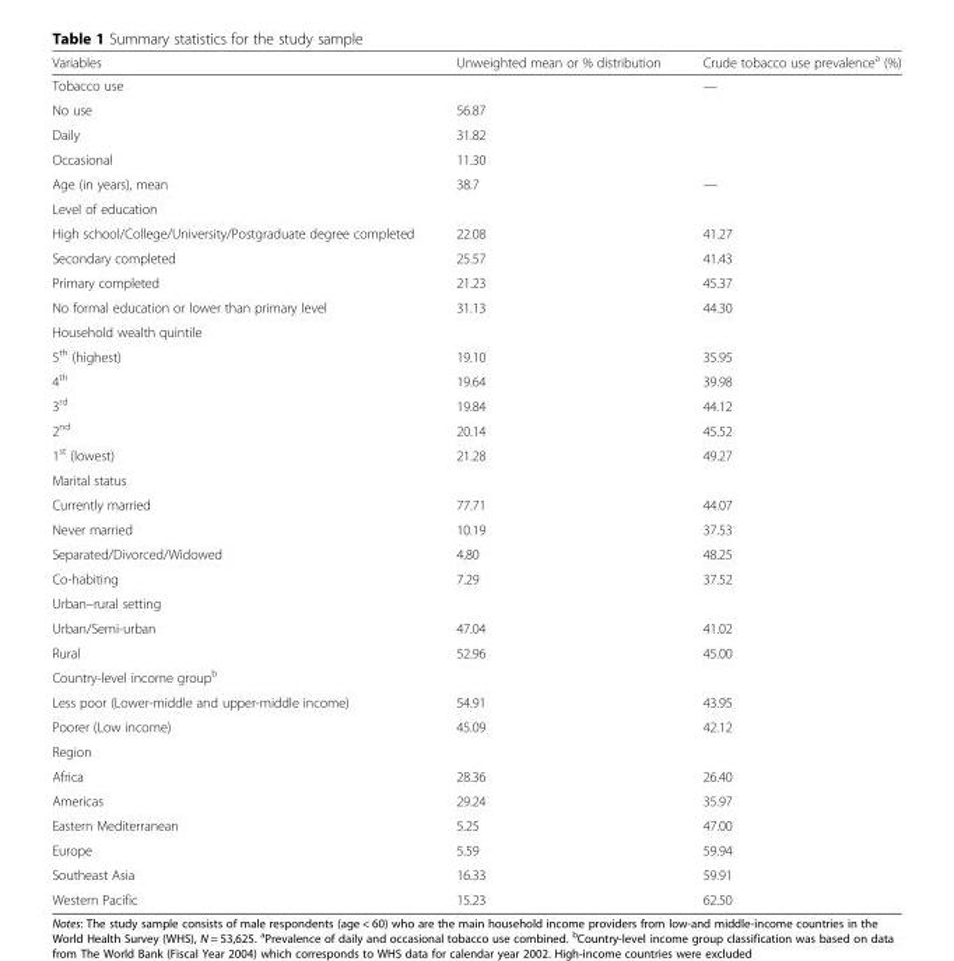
<table><thead><tr><td>Variables</td><td>Unweighted mean or % distribution</td><td>Crude tobacco use prevalence<sup>a</sup> (%)</td></tr></thead><tbody><tr><td>Tobacco use</td><td></td><td>—</td></tr><tr><td>No use</td><td>56.87</td><td></td></tr><tr><td>Daily</td><td>31.82</td><td></td></tr><tr><td>Occasional</td><td>11.30</td><td></td></tr><tr><td>Age (in years), mean</td><td>38.7</td><td>—</td></tr><tr><td colspan="3">Level of education</td></tr><tr><td>High school/College/University/Postgraduate degree completed</td><td>22.08</td><td>41.27</td></tr><tr><td>Secondary completed</td><td>25.57</td><td>41.43</td></tr><tr><td>Primary completed</td><td>21.23</td><td>45.37</td></tr><tr><td>No formal education or lower than primary level</td><td>31.13</td><td>44.30</td></tr><tr><td colspan="3">Household wealth quintile</td></tr><tr><td>5<sup>th</sup> (highest)</td><td>19.10</td><td>35.95</td></tr><tr><td>4<sup>th</sup></td><td>19.64</td><td>39.98</td></tr><tr><td>3<sup>rd</sup></td><td>19.84</td><td>44.12</td></tr><tr><td>2<sup>nd</sup></td><td>20.14</td><td>45.52</td></tr><tr><td>1<sup>st</sup> (lowest)</td><td>21.28</td><td>49.27</td></tr><tr><td colspan="3">Marital status</td></tr><tr><td>Currently married</td><td>77.71</td><td>44.07</td></tr><tr><td>Never married</td><td>10.19</td><td>37.53</td></tr><tr><td>Separated/Divorced/Widowed</td><td>4.80</td><td>48.25</td></tr><tr><td>Co-habiting</td><td>7.29</td><td>37.52</td></tr><tr><td colspan="3">Urban–rural setting</td></tr><tr><td>Urban/Semi-urban</td><td>47.04</td><td>41.02</td></tr><tr><td>Rural</td><td>52.96</td><td>45.00</td></tr><tr><td colspan="3">Country-level income group<sup>b</sup></td></tr><tr><td>Less poor (Lower-middle and upper-middle income)</td><td>54.91</td><td>43.95</td></tr><tr><td>Poorer (Low income)</td><td>45.09</td><td>42.12</td></tr><tr><td colspan="3">Region</td></tr><tr><td>Africa</td><td>28.36</td><td>26.40</td></tr><tr><td>Americas</td><td>29.24</td><td>35.97</td></tr><tr><td>Eastern Mediterranean</td><td>5.25</td><td>47.00</td></tr><tr><td>Europe</td><td>5.59</td><td>59.94</td></tr><tr><td>Southeast Asia</td><td>16.33</td><td>59.91</td></tr><tr><td>Western Pacific</td><td>15.23</td><td>62.50</td></tr></tbody></table>